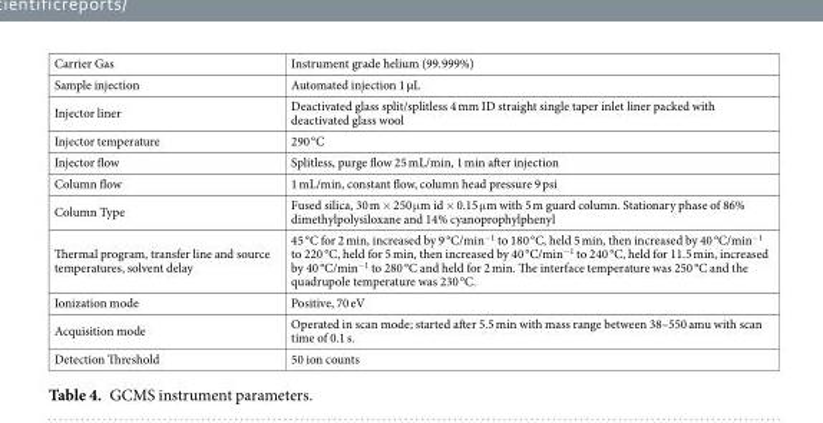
<table><tbody><tr><td>Carrier Gas</td><td>Instrument grade helium (99.999%)</td></tr><tr><td>Sample injection</td><td>Automated injection 1 µL</td></tr><tr><td>Injector liner</td><td>Deactivated glass split/splitless 4 mm ID straight single taper inlet liner packed with deactivated glass wool</td></tr><tr><td>Injector temperature</td><td>290 °C</td></tr><tr><td>Injector flow</td><td>Splitless, purge flow 25 mL/min, 1 min after injection</td></tr><tr><td>Column flow</td><td>1 mL/min, constant flow, column head pressure 9 psi</td></tr><tr><td>Column Type</td><td>Fused silica, 30 m × 250 μm id × 0.15 μm with 5 m guard column. Stationary phase of 86% dimethylpolysiloxane and 14% cyanoprophylphenyl</td></tr><tr><td>Thermal program, transfer line and source temperatures, solvent delay</td><td>45 °C for 2 min, increased by 9 °C/min<sup>−1</sup> to 180 °C, held 5 min, then increased by 40 °C/min<sup>−1</sup> to 220 °C, held for 5 min, then increased by 40 °C/min<sup>−1</sup> to 240 °C, held for 11.5 min, increased by 40 °C/min<sup>−1</sup> to 280 °C and held for 2 min. The interface temperature was 250 °C and the quadrupole temperature was 230 °C.</td></tr><tr><td>Ionization mode</td><td>Positive, 70 eV</td></tr><tr><td>Acquisition mode</td><td>Operated in scan mode; started after 5.5 min with mass range between 38–550 amu with scan time of 0.1 s.</td></tr><tr><td>Detection Threshold</td><td>50 ion counts</td></tr></tbody></table>